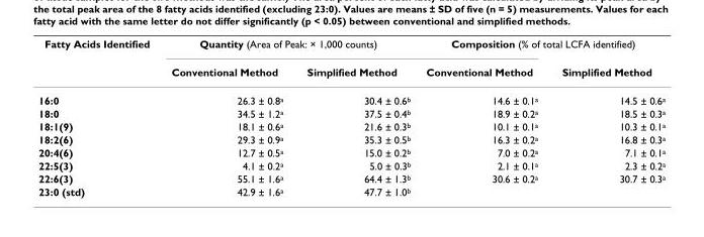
<table><thead><tr><td rowspan="2">Fatty Acids Identified</td><td colspan="2">Quantity (Area of Peak: × 1,000 counts)</td><td colspan="2">Composition (% of total LCFA identified)</td></tr><tr><td>Conventional Method</td><td>Simplified Method</td><td>Conventional Method</td><td>Simplified Method</td></tr></thead><tbody><tr><td>16:0</td><td>26.3 ± 0.8<sup>a</sup></td><td>30.4 ± 0.6<sup>b</sup></td><td>14.6 ± 0.1<sup>a</sup></td><td>14.5 ± 0.6<sup>a</sup></td></tr><tr><td>18:0</td><td>34.5 ± 1.2<sup>a</sup></td><td>37.5 ± 0.4<sup>b</sup></td><td>18.9 ± 0.2<sup>a</sup></td><td>18.5 ± 0.3<sup>a</sup></td></tr><tr><td>18:1(9)</td><td>18.1 ± 0.6<sup>a</sup></td><td>21.6 ± 0.3<sup>b</sup></td><td>10.1 ± 0.1<sup>a</sup></td><td>10.3 ± 0.1<sup>a</sup></td></tr><tr><td>18:2(6)</td><td>29.3 ± 0.9<sup>a</sup></td><td>35.3 ± 0.5<sup>b</sup></td><td>16.3 ± 0.2<sup>a</sup></td><td>16.8 ± 0.3<sup>a</sup></td></tr><tr><td>20:4(6)</td><td>12.7 ± 0.5<sup>a</sup></td><td>15.0 ± 0.2<sup>b</sup></td><td>7.0 ± 0.2<sup>a</sup></td><td>7.1 ± 0.1<sup>a</sup></td></tr><tr><td>22:5(3)</td><td>4.1 ± 0.2<sup>a</sup></td><td>5.0 ± 0.3<sup>b</sup></td><td>2.1 ± 0.1<sup>a</sup></td><td>2.3 ± 0.2<sup>a</sup></td></tr><tr><td>22:6(3)</td><td>55.1 ± 1.6<sup>a</sup></td><td>64.4 ± 1.3<sup>b</sup></td><td>30.6 ± 0.2<sup>a</sup></td><td>30.7 ± 0.3<sup>a</sup></td></tr><tr><td>23:0 (std)</td><td>42.9 ± 1.6<sup>a</sup></td><td>47.7 ± 1.0<sup>b</sup></td><td></td><td></td></tr></tbody></table>